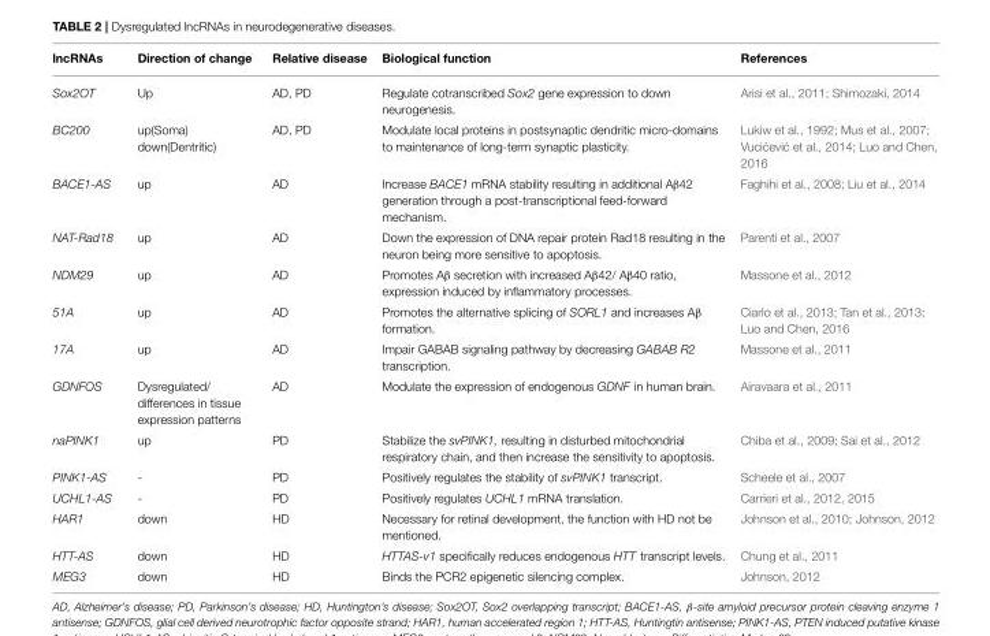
<table><thead><tr><td>lncRNAs</td><td>Direction of change</td><td>Relative disease</td><td>Biological function</td><td>References</td></tr></thead><tbody><tr><td>Sox2OT</td><td>Up</td><td>AD, PD</td><td>Regulate cotranscribed Sox2 gene expression to down neurogenesis.</td><td>Arisi et al., 2011; Shimozaki, 2014</td></tr><tr><td>BC200</td><td>up(Soma) down(Dentritic)</td><td>AD, PD</td><td>Modulate local proteins in postsynaptic dendritic micro-domains to maintenance of long-term synaptic plasticity.</td><td>Lukiw et al., 1992; Mus et al., 2007; Vuci ´cevi ´c et al., 2014; Luo and Chen, 2016</td></tr><tr><td>BACE1-AS</td><td>up</td><td>AD</td><td>Increase BACE1 mRNA stability resulting in additional Aβ42 generation through a post-transcriptional feed-forward mechanism.</td><td>Faghihi et al., 2008; Liu et al., 2014</td></tr><tr><td>NAT-Rad18</td><td>up</td><td>AD</td><td>Down the expression of DNA repair protein Rad18 resulting in the neuron being more sensitive to apoptosis.</td><td>Parenti et al., 2007</td></tr><tr><td>NDM29</td><td>up</td><td>AD</td><td>Promotes Aβ secretion with increased Aβ42/ Aβ40 ratio, expression induced by inflammatory processes.</td><td>Massone et al., 2012</td></tr><tr><td>51A</td><td>up</td><td>AD</td><td>Promotes the alternative splicing of SORL1 and increases Aβ formation.</td><td>Ciarlo et al., 2013; Tan et al., 2013; Luo and Chen, 2016</td></tr><tr><td>17A</td><td>up</td><td>AD</td><td>Impair GABAB signaling pathway by decreasing GABAB R2 transcription.</td><td>Massone et al., 2011</td></tr><tr><td>GDNFOS</td><td>Dysregulated/ differences in tissue expression patterns</td><td>AD</td><td>Modulate the expression of endogenous GDNF in human brain.</td><td>Airavaara et al., 2011</td></tr><tr><td>naPINK1</td><td>up</td><td>PD</td><td>Stabilize the svPINK1, resulting in disturbed mitochondrial respiratory chain, and then increase the sensitivity to apoptosis.</td><td>Chiba et al., 2009; Sai et al., 2012</td></tr><tr><td>PINK1-AS</td><td>-</td><td>PD</td><td>Positively regulates the stability of svPINK1 transcript.</td><td>Scheele et al., 2007</td></tr><tr><td>UCHL1-AS</td><td>-</td><td>PD</td><td>Positively regulates UCHL1 mRNA translation.</td><td>Carrieri et al., 2012, 2015</td></tr><tr><td>HAR1</td><td>down</td><td>HD</td><td>Necessary for retinal development, the function with HD not be mentioned.</td><td>Johnson et al., 2010; Johnson, 2012</td></tr><tr><td>HTT-AS</td><td>down</td><td>HD</td><td>HTTAS-v1 specifically reduces endogenous HTT transcript levels.</td><td>Chung et al., 2011</td></tr><tr><td>MEG3</td><td>down</td><td>HD</td><td>Binds the PCR2 epigenetic silencing complex.</td><td>Johnson, 2012</td></tr></tbody></table>